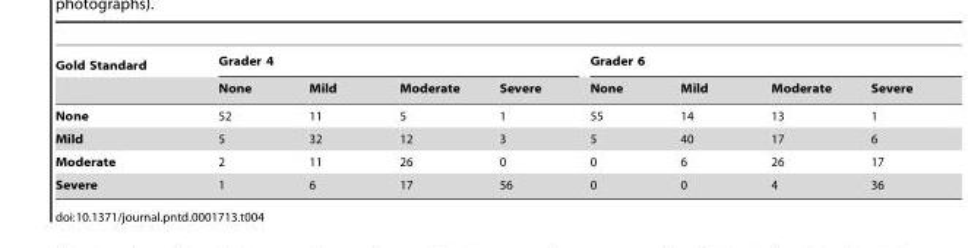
<table><thead><tr><td rowspan="2">Gold Standard</td><td colspan="4">Grader 4</td><td colspan="4">Grader 6</td></tr><tr><td>None</td><td>Mild</td><td>Moderate</td><td>Severe</td><td>None</td><td>Mild</td><td>Moderate</td><td>Severe</td></tr></thead><tbody><tr><td>None</td><td>52</td><td>11</td><td>5</td><td>1</td><td>55</td><td>14</td><td>13</td><td>1</td></tr><tr><td>Mild</td><td>5</td><td>32</td><td>12</td><td>3</td><td>5</td><td>40</td><td>17</td><td>6</td></tr><tr><td>Moderate</td><td>2</td><td>11</td><td>26</td><td>0</td><td>0</td><td>6</td><td>26</td><td>17</td></tr><tr><td>Severe</td><td>1</td><td>6</td><td>17</td><td>56</td><td>0</td><td>0</td><td>4</td><td>36</td></tr></tbody></table>